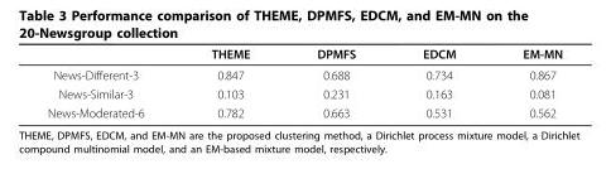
<table><thead><tr><td></td><td>THEME</td><td>DPMFS</td><td>EDCM</td><td>EM-MN</td></tr></thead><tbody><tr><td>News-Different-3</td><td>0.847</td><td>0.688</td><td>0.734</td><td>0.867</td></tr><tr><td>News-Similar-3</td><td>0.103</td><td>0.231</td><td>0.163</td><td>0.081</td></tr><tr><td>News-Moderated-6</td><td>0.782</td><td>0.663</td><td>0.531</td><td>0.562</td></tr></tbody></table>